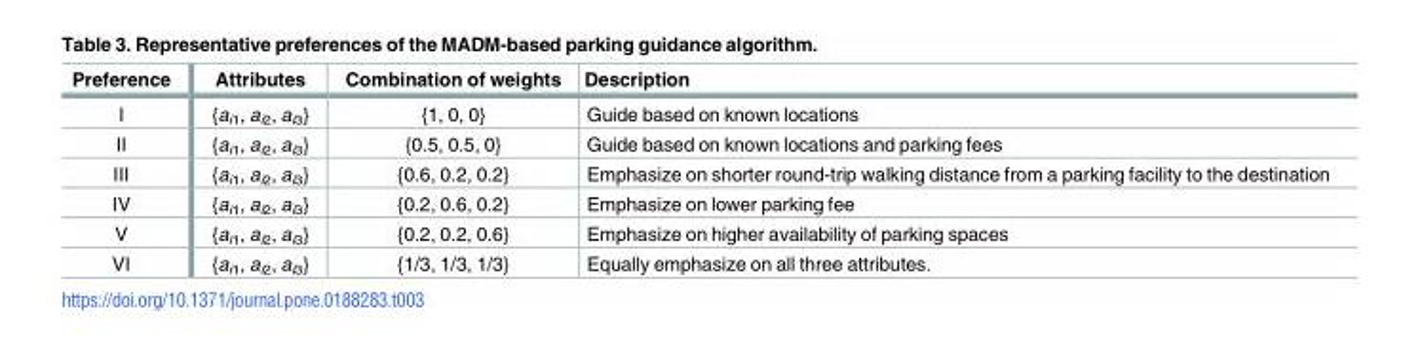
<table><thead><tr><td>Preference</td><td>Attributes</td><td>Combination of weights</td><td>Description</td></tr></thead><tbody><tr><td>I</td><td>{a<sub>i1</sub>, a<sub>i2</sub>, a<sub>i3</sub>}</td><td>{1, 0, 0}</td><td>Guide based on known locations</td></tr><tr><td>II</td><td>{a<sub>i1</sub>, a<sub>i2</sub>, a<sub>i3</sub>}</td><td>{0.5, 0.5, 0}</td><td>Guide based on known locations and parking fees</td></tr><tr><td>III</td><td>{a<sub>i1</sub>, a<sub>i2</sub>, a<sub>i3</sub>}</td><td>{0.6, 0.2, 0.2}</td><td>Emphasize on shorter round-trip walking distance from a parking facility to the destination</td></tr><tr><td>IV</td><td>{a<sub>i1</sub>, a<sub>i2</sub>, a<sub>i3</sub>}</td><td>{0.2, 0.6, 0.2}</td><td>Emphasize on lower parking fee</td></tr><tr><td>V</td><td>{a<sub>i1</sub>, a<sub>i2</sub>, a<sub>i3</sub>}</td><td>{0.2, 0.2, 0.6}</td><td>Emphasize on higher availability of parking spaces</td></tr><tr><td>VI</td><td>{a<sub>i1</sub>, a<sub>i2</sub>, a<sub>i3</sub>}</td><td>{1/3, 1/3, 1/3}</td><td>Equally emphasize on all three attributes.</td></tr></tbody></table>